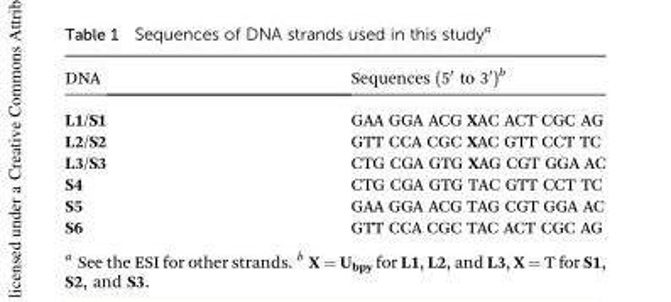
<table><thead><tr><td>DNA</td><td>Sequences (5′ to 3′)<sup>b</sup></td></tr></thead><tbody><tr><td>L1/S1</td><td>GAA GGA ACG XAC ACT CGC AG</td></tr><tr><td>L2/S2</td><td>GTT CCA CGC XAC GTT CCT TC</td></tr><tr><td>L3/S3</td><td>CTG CGA GTG XAG CGT GGA AC</td></tr><tr><td>S4</td><td>CTG CGA GTG TAC GTT CCT TC</td></tr><tr><td>S5</td><td>GAA GGA ACG TAG CGT GGA AC</td></tr><tr><td>S6</td><td>GTT CCA CGC TAC ACT CGC AG</td></tr></tbody></table>